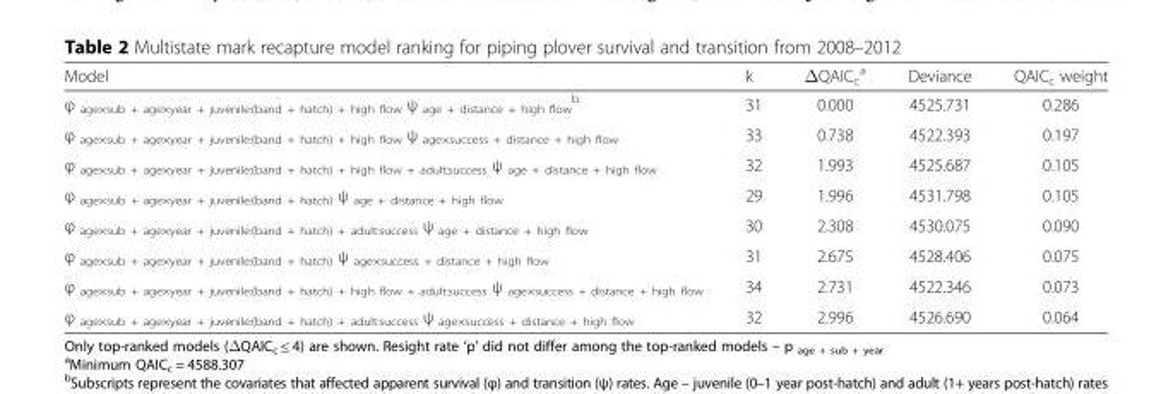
<table><thead><tr><td>Model</td><td>k</td><td>ΔQAIC<sub>c</sub> <sup>a</sup></td><td>Deviance</td><td>QAIC<sub>c</sub> weight</td></tr></thead><tbody><tr><td>φ <sub>age×sub + age×year + juvenile:(band + hatch) + high flow</sub> ψ <sub>age + distance + high flow</sub> <sup>b</sup></td><td>31</td><td>0.000</td><td>4525.731</td><td>0.286</td></tr><tr><td>φ <sub>age×sub + age×year + juvenile:(band + hatch) + high flow</sub> ψ <sub>age×success + distance + high flow</sub></td><td>33</td><td>0.738</td><td>4522.393</td><td>0.197</td></tr><tr><td>φ <sub>age×sub + age×year + juvenile:(band + hatch) + high flow + adult:success</sub> ψ <sub>age + distance + high flow</sub></td><td>32</td><td>1.993</td><td>4525.687</td><td>0.105</td></tr><tr><td>φ <sub>age×sub + age×year + juvenile:(band + hatch)</sub> ψ <sub>age + distance + high flow</sub></td><td>29</td><td>1.996</td><td>4531.798</td><td>0.105</td></tr><tr><td>φ <sub>age×sub + age×year + juvenile:(band + hatch) + adult:success</sub> ψ <sub>age + distance + high flow</sub></td><td>30</td><td>2.308</td><td>4530.075</td><td>0.090</td></tr><tr><td>φ <sub>age×sub + age×year + juvenile:(band + hatch)</sub> ψ <sub>age×success + distance + high flow</sub></td><td>31</td><td>2.675</td><td>4528.406</td><td>0.075</td></tr><tr><td>φ <sub>age×sub + age×year + juvenile:(band + hatch) + high flow + adult:success</sub> ψ <sub>age×success + distance + high flow</sub></td><td>34</td><td>2.731</td><td>4522.346</td><td>0.073</td></tr><tr><td>φ <sub>age×sub + age×year + juvenile:(band + hatch) + adult:success</sub> ψ <sub>age×success + distance + high flow</sub></td><td>32</td><td>2.996</td><td>4526.690</td><td>0.064</td></tr></tbody></table>